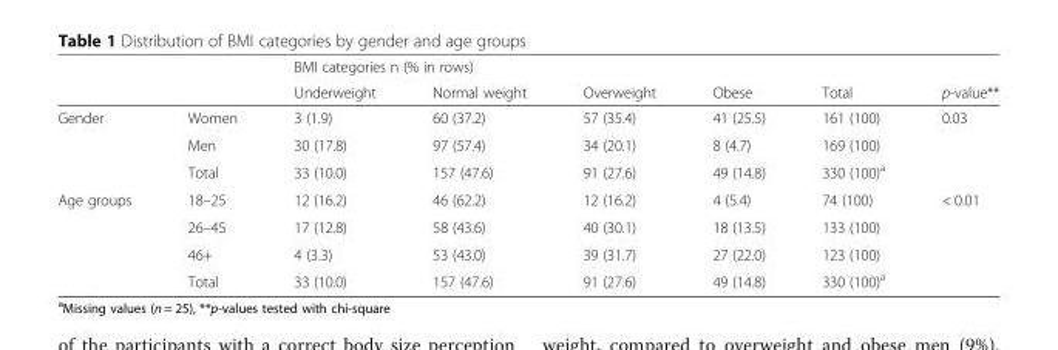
<table><thead><tr><td rowspan="2"></td><td rowspan="2"></td><td colspan="6">BMI categories n (% in rows)</td></tr><tr><td>Underweight</td><td>Normal weight</td><td>Overweight</td><td>Obese</td><td>Total</td><td>p-value**</td></tr></thead><tbody><tr><td rowspan="3">Gender</td><td>Women</td><td>3 (1.9)</td><td>60 (37.2)</td><td>57 (35.4)</td><td>41 (25.5)</td><td>161 (100)</td><td rowspan="2">0.03</td></tr><tr><td>Men</td><td>30 (17.8)</td><td>97 (57.4)</td><td>34 (20.1)</td><td>8 (4.7)</td><td>169 (100)</td></tr><tr><td>Total</td><td>33 (10.0)</td><td>157 (47.6)</td><td>91 (27.6)</td><td>49 (14.8)</td><td>330 (100)<sup>a</sup></td><td></td></tr><tr><td rowspan="4">Age groups</td><td>18–25</td><td>12 (16.2)</td><td>46 (62.2)</td><td>12 (16.2)</td><td>4 (5.4)</td><td>74 (100)</td><td rowspan="3">&lt; 0.01</td></tr><tr><td>26–45</td><td>17 (12.8)</td><td>58 (43.6)</td><td>40 (30.1)</td><td>18 (13.5)</td><td>133 (100)</td></tr><tr><td>46+</td><td>4 (3.3)</td><td>53 (43.0)</td><td>39 (31.7)</td><td>27 (22.0)</td><td>123 (100)</td></tr><tr><td>Total</td><td>33 (10.0)</td><td>157 (47.6)</td><td>91 (27.6)</td><td>49 (14.8)</td><td>330 (100)<sup>a</sup></td><td></td></tr></tbody></table>